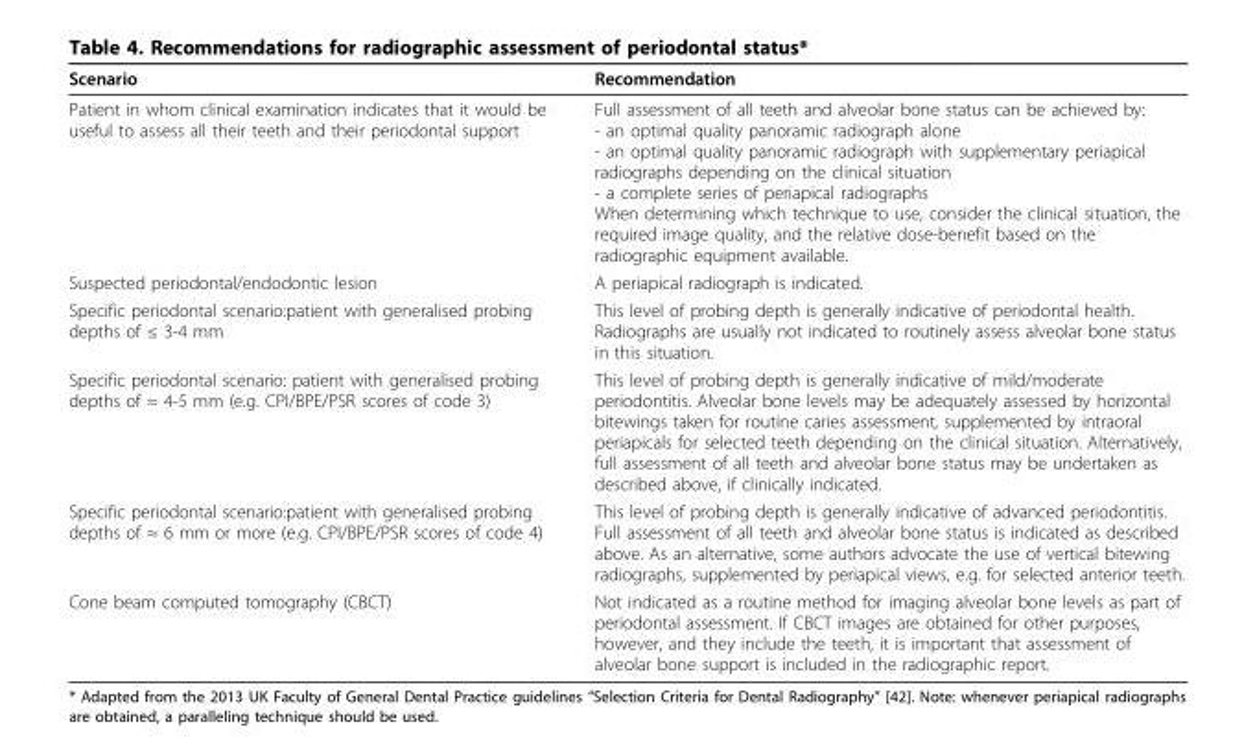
<table><thead><tr><td>Scenario</td><td>Recommendation</td></tr></thead><tbody><tr><td>Patient in whom clinical examination indicates that it would be useful to assess all their teeth and their periodontal support</td><td>Full assessment of all teeth and alveolar bone status can be achieved by: - an optimal quality panoramic radiograph alone - an optimal quality panoramic radiograph with supplementary periapical radiographs depending on the clinical situation - a complete series of periapical radiographs When determining which technique to use, consider the clinical situation, the required image quality, and the relative dose-benefit based on the radiographic equipment available.</td></tr><tr><td>Suspected periodontal/endodontic lesion</td><td>A periapical radiograph is indicated.</td></tr><tr><td>Specific periodontal scenario:patient with generalised probing depths of ≤ 3-4 mm</td><td>This level of probing depth is generally indicative of periodontal health. Radiographs are usually not indicated to routinely assess alveolar bone status in this situation.</td></tr><tr><td>Specific periodontal scenario: patient with generalised probing depths of ≈ 4-5 mm (e.g. CPI/BPE/PSR scores of code 3)</td><td>This level of probing depth is generally indicative of mild/moderate periodontitis. Alveolar bone levels may be adequately assessed by horizontal bitewings taken for routine caries assessment, supplemented by intraoral periapicals for selected teeth depending on the clinical situation. Alternatively, full assessment of all teeth and alveolar bone status may be undertaken as described above, if clinically indicated.</td></tr><tr><td>Specific periodontal scenario:patient with generalised probing depths of ≈ 6 mm or more (e.g. CPI/BPE/PSR scores of code 4)</td><td>This level of probing depth is generally indicative of advanced periodontitis. Full assessment of all teeth and alveolar bone status is indicated as described above. As an alternative, some authors advocate the use of vertical bitewing radiographs, supplemented by periapical views, e.g. for selected anterior teeth.</td></tr><tr><td>Cone beam computed tomography (CBCT)</td><td>Not indicated as a routine method for imaging alveolar bone levels as part of periodontal assessment. If CBCT images are obtained for other purposes, however, and they include the teeth, it is important that assessment of alveolar bone support is included in the radiographic report.</td></tr></tbody></table>